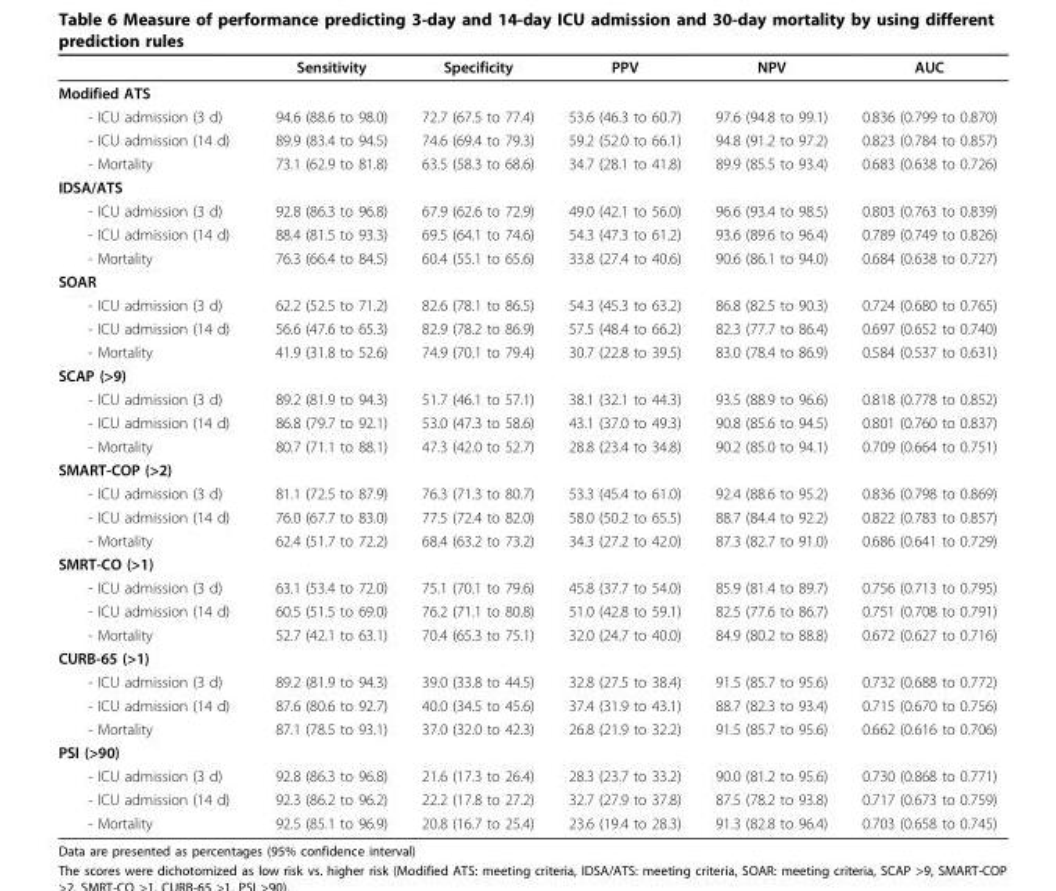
<table><thead><tr><td></td><td>Sensitivity</td><td>Specificity</td><td>PPV</td><td>NPV</td><td>AUC</td></tr></thead><tbody><tr><td colspan="6">Modified ATS</td></tr><tr><td>- ICU admission (3 d)</td><td>94.6 (88.6 to 98.0)</td><td>72.7 (67.5 to 77.4)</td><td>53.6 (46.3 to 60.7)</td><td>97.6 (94.8 to 99.1)</td><td>0.836 (0.799 to 0.870)</td></tr><tr><td>- ICU admission (14 d)</td><td>89.9 (83.4 to 94.5)</td><td>74.6 (69.4 to 79.3)</td><td>59.2 (52.0 to 66.1)</td><td>94.8 (91.2 to 97.2)</td><td>0.823 (0.784 to 0.857)</td></tr><tr><td>- Mortality</td><td>73.1 (62.9 to 81.8)</td><td>63.5 (58.3 to 68.6)</td><td>34.7 (28.1 to 41.8)</td><td>89.9 (85.5 to 93.4)</td><td>0.683 (0.638 to 0.726)</td></tr><tr><td colspan="6">IDSA/ATS</td></tr><tr><td>- ICU admission (3 d)</td><td>92.8 (86.3 to 96.8)</td><td>67.9 (62.6 to 72.9)</td><td>49.0 (42.1 to 56.0)</td><td>96.6 (93.4 to 98.5)</td><td>0.803 (0.763 to 0.839)</td></tr><tr><td>- ICU admission (14 d)</td><td>88.4 (81.5 to 93.3)</td><td>69.5 (64.1 to 74.6)</td><td>54.3 (47.3 to 61.2)</td><td>93.6 (89.6 to 96.4)</td><td>0.789 (0.749 to 0.826)</td></tr><tr><td>- Mortality</td><td>76.3 (66.4 to 84.5)</td><td>60.4 (55.1 to 65.6)</td><td>33.8 (27.4 to 40.6)</td><td>90.6 (86.1 to 94.0)</td><td>0.684 (0.638 to 0.727)</td></tr><tr><td colspan="6">SOAR</td></tr><tr><td>- ICU admission (3 d)</td><td>62.2 (52.5 to 71.2)</td><td>82.6 (78.1 to 86.5)</td><td>54.3 (45.3 to 63.2)</td><td>86.8 (82.5 to 90.3)</td><td>0.724 (0.680 to 0.765)</td></tr><tr><td>- ICU admission (14 d)</td><td>56.6 (47.6 to 65.3)</td><td>82.9 (78.2 to 86.9)</td><td>57.5 (48.4 to 66.2)</td><td>82.3 (77.7 to 86.4)</td><td>0.697 (0.652 to 0.740)</td></tr><tr><td>- Mortality</td><td>41.9 (31.8 to 52.6)</td><td>74.9 (70.1 to 79.4)</td><td>30.7 (22.8 to 39.5)</td><td>83.0 (78.4 to 86.9)</td><td>0.584 (0.537 to 0.631)</td></tr><tr><td colspan="6">SCAP (&gt;9)</td></tr><tr><td>- ICU admission (3 d)</td><td>89.2 (81.9 to 94.3)</td><td>51.7 (46.1 to 57.1)</td><td>38.1 (32.1 to 44.3)</td><td>93.5 (88.9 to 96.6)</td><td>0.818 (0.778 to 0.852)</td></tr><tr><td>- ICU admission (14 d)</td><td>86.8 (79.7 to 92.1)</td><td>53.0 (47.3 to 58.6)</td><td>43.1 (37.0 to 49.3)</td><td>90.8 (85.6 to 94.5)</td><td>0.801 (0.760 to 0.837)</td></tr><tr><td>- Mortality</td><td>80.7 (71.1 to 88.1)</td><td>47.3 (42.0 to 52.7)</td><td>28.8 (23.4 to 34.8)</td><td>90.2 (85.0 to 94.1)</td><td>0.709 (0.664 to 0.751)</td></tr><tr><td colspan="6">SMART-COP (&gt;2)</td></tr><tr><td>- ICU admission (3 d)</td><td>81.1 (72.5 to 87.9)</td><td>76.3 (71.3 to 80.7)</td><td>53.3 (45.4 to 61.0)</td><td>92.4 (88.6 to 95.2)</td><td>0.836 (0.798 to 0.869)</td></tr><tr><td>- ICU admission (14 d)</td><td>76.0 (67.7 to 83.0)</td><td>77.5 (72.4 to 82.0)</td><td>58.0 (50.2 to 65.5)</td><td>88.7 (84.4 to 92.2)</td><td>0.822 (0.783 to 0.857)</td></tr><tr><td>- Mortality</td><td>62.4 (51.7 to 72.2)</td><td>68.4 (63.2 to 73.2)</td><td>34.3 (27.2 to 42.0)</td><td>87.3 (82.7 to 91.0)</td><td>0.686 (0.641 to 0.729)</td></tr><tr><td colspan="6">SMRT-CO (&gt;1)</td></tr><tr><td>- ICU admission (3 d)</td><td>63.1 (53.4 to 72.0)</td><td>75.1 (70.1 to 79.6)</td><td>45.8 (37.7 to 54.0)</td><td>85.9 (81.4 to 89.7)</td><td>0.756 (0.713 to 0.795)</td></tr><tr><td>- ICU admission (14 d)</td><td>60.5 (51.5 to 69.0)</td><td>76.2 (71.1 to 80.8)</td><td>51.0 (42.8 to 59.1)</td><td>82.5 (77.6 to 86.7)</td><td>0.751 (0.708 to 0.791)</td></tr><tr><td>- Mortality</td><td>52.7 (42.1 to 63.1)</td><td>70.4 (65.3 to 75.1)</td><td>32.0 (24.7 to 40.0)</td><td>84.9 (80.2 to 88.8)</td><td>0.672 (0.627 to 0.716)</td></tr><tr><td colspan="6">CURB-65 (&gt;1)</td></tr><tr><td>- ICU admission (3 d)</td><td>89.2 (81.9 to 94.3)</td><td>39.0 (33.8 to 44.5)</td><td>32.8 (27.5 to 38.4)</td><td>91.5 (85.7 to 95.6)</td><td>0.732 (0.688 to 0.772)</td></tr><tr><td>- ICU admission (14 d)</td><td>87.6 (80.6 to 92.7)</td><td>40.0 (34.5 to 45.6)</td><td>37.4 (31.9 to 43.1)</td><td>88.7 (82.3 to 93.4)</td><td>0.715 (0.670 to 0.756)</td></tr><tr><td>- Mortality</td><td>87.1 (78.5 to 93.1)</td><td>37.0 (32.0 to 42.3)</td><td>26.8 (21.9 to 32.2)</td><td>91.5 (85.7 to 95.6)</td><td>0.662 (0.616 to 0.706)</td></tr><tr><td colspan="6">PSI (&gt;90)</td></tr><tr><td>- ICU admission (3 d)</td><td>92.8 (86.3 to 96.8)</td><td>21.6 (17.3 to 26.4)</td><td>28.3 (23.7 to 33.2)</td><td>90.0 (81.2 to 95.6)</td><td>0.730 (0.868 to 0.771)</td></tr><tr><td>- ICU admission (14 d)</td><td>92.3 (86.2 to 96.2)</td><td>22.2 (17.8 to 27.2)</td><td>32.7 (27.9 to 37.8)</td><td>87.5 (78.2 to 93.8)</td><td>0.717 (0.673 to 0.759)</td></tr><tr><td>- Mortality</td><td>92.5 (85.1 to 96.9)</td><td>20.8 (16.7 to 25.4)</td><td>23.6 (19.4 to 28.3)</td><td>91.3 (82.8 to 96.4)</td><td>0.703 (0.658 to 0.745)</td></tr></tbody></table>